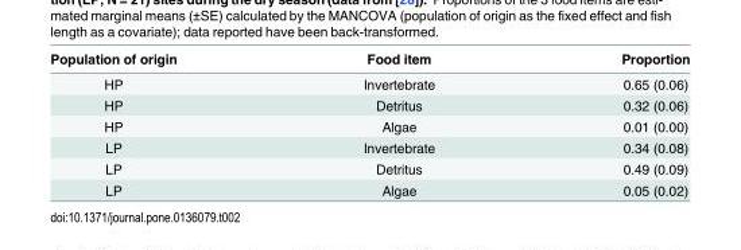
<table><thead><tr><td>Population of origin</td><td>Food item</td><td>Proportion</td></tr></thead><tbody><tr><td>HP</td><td>Invertebrate</td><td>0.65 (0.06)</td></tr><tr><td>HP</td><td>Detritus</td><td>0.32 (0.06)</td></tr><tr><td>HP</td><td>Algae</td><td>0.01 (0.00)</td></tr><tr><td>LP</td><td>Invertebrate</td><td>0.34 (0.08)</td></tr><tr><td>LP</td><td>Detritus</td><td>0.49 (0.09)</td></tr><tr><td>LP</td><td>Algae</td><td>0.05 (0.02)</td></tr></tbody></table>